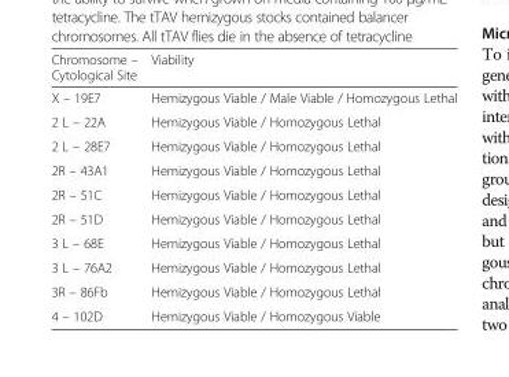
<table><thead><tr><td>Chromosome – Cytological Site</td><td>Viability</td></tr></thead><tbody><tr><td>X – 19E7</td><td>Hemizygous Viable / Male Viable / Homozygous Lethal</td></tr><tr><td>2 L – 22A</td><td>Hemizygous Viable / Homozygous Lethal</td></tr><tr><td>2 L – 28E7</td><td>Hemizygous Viable / Homozygous Lethal</td></tr><tr><td>2R – 43A1</td><td>Hemizygous Viable / Homozygous Lethal</td></tr><tr><td>2R – 51C</td><td>Hemizygous Viable / Homozygous Lethal</td></tr><tr><td>2R – 51D</td><td>Hemizygous Viable / Homozygous Lethal</td></tr><tr><td>3 L – 68E</td><td>Hemizygous Viable / Homozygous Lethal</td></tr><tr><td>3 L – 76A2</td><td>Hemizygous Viable / Homozygous Lethal</td></tr><tr><td>3R – 86Fb</td><td>Hemizygous Viable / Homozygous Lethal</td></tr><tr><td>4 – 102D</td><td>Hemizygous Viable / Homozygous Viable</td></tr></tbody></table>